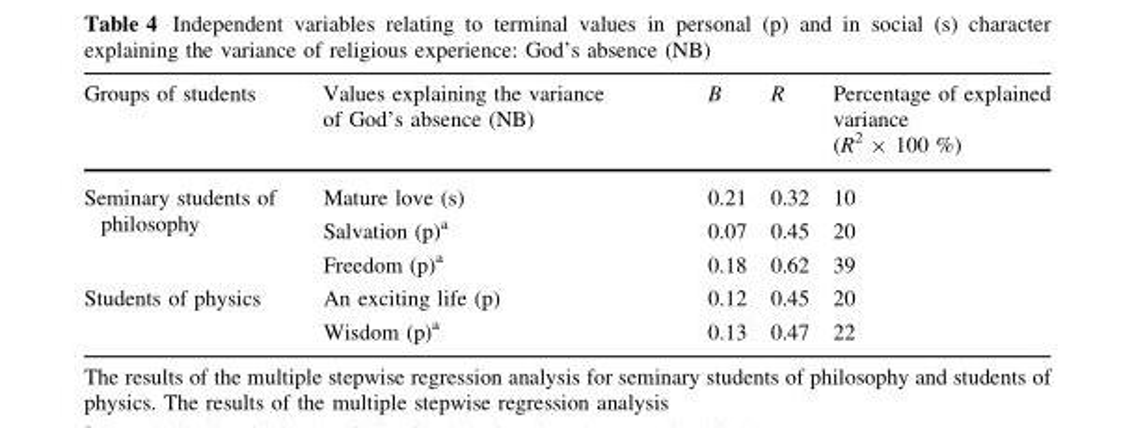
<table><thead><tr><td>Groups of students</td><td>Values explaining the variance of God’s absence (NB)</td><td>B</td><td>R</td><td>Percentage of explained variance (R<sup>2</sup> × 100 %)</td></tr></thead><tbody><tr><td rowspan="3">Seminary students of philosophy</td><td>Mature love (s)</td><td>0.21</td><td>0.32</td><td>10</td></tr><tr><td>Salvation (p)<sup>a</sup></td><td>0.07</td><td>0.45</td><td>20</td></tr><tr><td>Freedom (p)<sup>a</sup></td><td>0.18</td><td>0.62</td><td>39</td></tr><tr><td rowspan="2">Students of physics</td><td>An exciting life (p)</td><td>0.12</td><td>0.45</td><td>20</td></tr><tr><td>Wisdom (p)<sup>a</sup></td><td>0.13</td><td>0.47</td><td>22</td></tr></tbody></table>